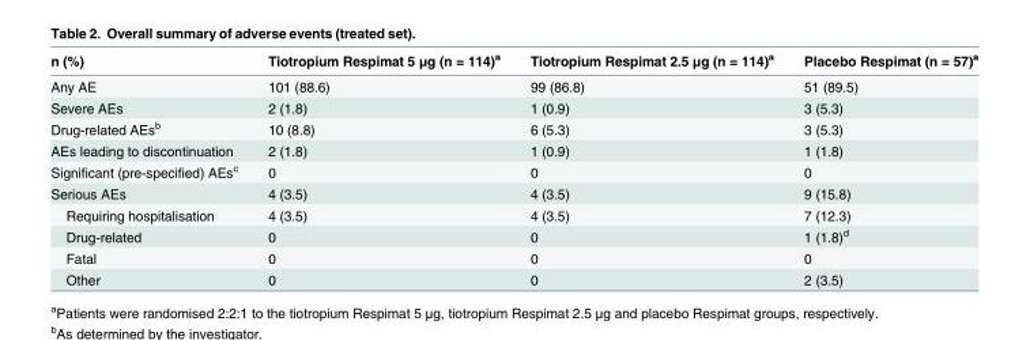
<table><thead><tr><td>n (%)</td><td>Tiotropium Respimat 5 μg (n = 114)<sup>a</sup></td><td>Tiotropium Respimat 2.5 μg (n = 114)<sup>a</sup></td><td>Placebo Respimat (n = 57)<sup>a</sup></td></tr></thead><tbody><tr><td>Any AE</td><td>101 (88.6)</td><td>99 (86.8)</td><td>51 (89.5)</td></tr><tr><td>Severe AEs</td><td>2 (1.8)</td><td>1 (0.9)</td><td>3 (5.3)</td></tr><tr><td>Drug-related AEs<sup>b</sup></td><td>10 (8.8)</td><td>6 (5.3)</td><td>3 (5.3)</td></tr><tr><td>AEs leading to discontinuation</td><td>2 (1.8)</td><td>1 (0.9)</td><td>1 (1.8)</td></tr><tr><td>Significant (pre-specified) AEs<sup>c</sup></td><td>0</td><td>0</td><td>0</td></tr><tr><td>Serious AEs</td><td>4 (3.5)</td><td>4 (3.5)</td><td>9 (15.8)</td></tr><tr><td>Requiring hospitalisation</td><td>4 (3.5)</td><td>4 (3.5)</td><td>7 (12.3)</td></tr><tr><td>Drug-related</td><td>0</td><td>0</td><td>1 (1.8)<sup>d</sup></td></tr><tr><td>Fatal</td><td>0</td><td>0</td><td>0</td></tr><tr><td>Other</td><td>0</td><td>0</td><td>2 (3.5)</td></tr></tbody></table>